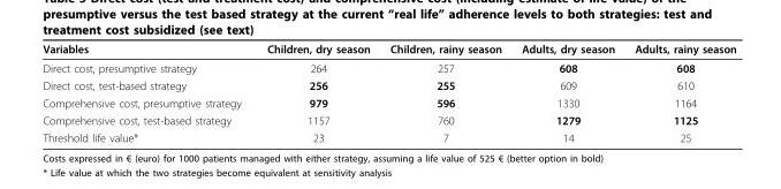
<table><thead><tr><td>Variables</td><td>Children, dry season</td><td>Children, rainy season</td><td>Adults, dry season</td><td>Adults, rainy season</td></tr></thead><tbody><tr><td>Direct cost, presumptive strategy</td><td>264</td><td>257</td><td>608</td><td>608</td></tr><tr><td>Direct cost, test-based strategy</td><td>256</td><td>255</td><td>609</td><td>610</td></tr><tr><td>Comprehensive cost, presumptive strategy</td><td>979</td><td>596</td><td>1330</td><td>1164</td></tr><tr><td>Comprehensive cost, test-based strategy</td><td>1157</td><td>760</td><td>1279</td><td>1125</td></tr><tr><td>Threshold life value*</td><td>23</td><td>7</td><td>14</td><td>25</td></tr></tbody></table>